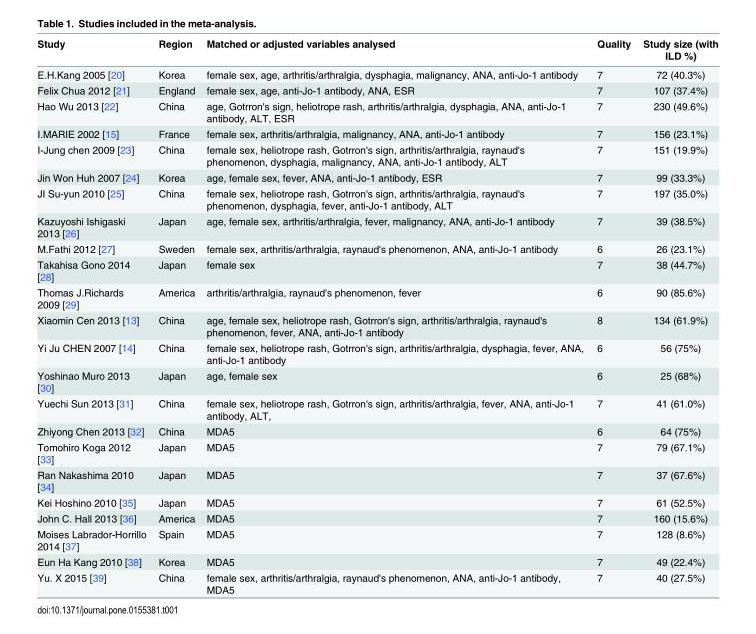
<table><thead><tr><td>Study</td><td>Region</td><td>Matched or adjusted variables analysed</td><td>Quality</td><td>Study size (with ILD %)</td></tr></thead><tbody><tr><td>E.H.Kang 2005 [20]</td><td>Korea</td><td>female sex, age, arthritis/arthralgia, dysphagia, malignancy, ANA, anti-Jo-1 antibody</td><td>7</td><td>72 (40.3%)</td></tr><tr><td>Felix Chua 2012 [21]</td><td>England</td><td>female sex, age, anti-Jo-1 antibody, ANA, ESR</td><td>7</td><td>107 (37.4%)</td></tr><tr><td>Hao Wu 2013 [22]</td><td>China</td><td>age, Gotrron&#x27;s sign, heliotrope rash, arthritis/arthralgia, dysphagia, ANA, anti-Jo-1 antibody, ALT, ESR</td><td>7</td><td>230 (49.6%)</td></tr><tr><td>I.MARIE 2002 [15]</td><td>France</td><td>female sex, arthritis/arthralgia, malignancy, ANA, anti-Jo-1 antibody</td><td>7</td><td>156 (23.1%)</td></tr><tr><td>I-Jung chen 2009 [23]</td><td>China</td><td>female sex, heliotrope rash, Gotrron&#x27;s sign, arthritis/arthralgia, raynaud&#x27;s phenomenon, dysphagia, malignancy, ANA, anti-Jo-1 antibody, ALT</td><td>7</td><td>151 (19.9%)</td></tr><tr><td>Jin Won Huh 2007 [24]</td><td>Korea</td><td>age, female sex, fever, ANA, anti-Jo-1 antibody, ESR</td><td>7</td><td>99 (33.3%)</td></tr><tr><td>JI Su-yun 2010 [25]</td><td>China</td><td>female sex, heliotrope rash, Gotrron&#x27;s sign, arthritis/arthralgia, raynaud&#x27;s phenomenon, dysphagia, fever, anti-Jo-1 antibody, ALT</td><td>7</td><td>197 (35.0%)</td></tr><tr><td>Kazuyoshi Ishigaski 2013 [26]</td><td>Japan</td><td>age, female sex, arthritis/arthralgia, fever, malignancy, ANA, anti-Jo-1 antibody</td><td>7</td><td>39 (38.5%)</td></tr><tr><td>M.Fathi 2012 [27]</td><td>Sweden</td><td>female sex, arthritis/arthralgia, raynaud&#x27;s phenomenon, ANA, anti-Jo-1 antibody</td><td>6</td><td>26 (23.1%)</td></tr><tr><td>Takahisa Gono 2014 [28]</td><td>Japan</td><td>female sex</td><td>7</td><td>38 (44.7%)</td></tr><tr><td>Thomas J.Richards 2009 [29]</td><td>America</td><td>arthritis/arthralgia, raynaud&#x27;s phenomenon, fever</td><td>6</td><td>90 (85.6%)</td></tr><tr><td>Xiaomin Cen 2013 [13]</td><td>China</td><td>age, female sex, heliotrope rash, Gotrron&#x27;s sign, arthritis/arthralgia, raynaud&#x27;s phenomenon, fever, ANA, anti-Jo-1 antibody</td><td>8</td><td>134 (61.9%)</td></tr><tr><td>Yi Ju CHEN 2007 [14]</td><td>China</td><td>female sex, heliotrope rash, Gotrron&#x27;s sign, arthritis/arthralgia, dysphagia, fever, ANA, anti-Jo-1 antibody</td><td>6</td><td>56 (75%)</td></tr><tr><td>Yoshinao Muro 2013 [30]</td><td>Japan</td><td>age, female sex</td><td>6</td><td>25 (68%)</td></tr><tr><td>Yuechi Sun 2013 [31]</td><td>China</td><td>female sex, heliotrope rash, Gotrron&#x27;s sign, arthritis/arthralgia, fever, ANA, anti-Jo-1 antibody, ALT,</td><td>7</td><td>41 (61.0%)</td></tr><tr><td>Zhiyong Chen 2013 [32]</td><td>China</td><td>MDA5</td><td>6</td><td>64 (75%)</td></tr><tr><td>Tomohiro Koga 2012 [33]</td><td>Japan</td><td>MDA5</td><td>7</td><td>79 (67.1%)</td></tr><tr><td>Ran Nakashima 2010 [34]</td><td>Japan</td><td>MDA5</td><td>7</td><td>37 (67.6%)</td></tr><tr><td>Kei Hoshino 2010 [35]</td><td>Japan</td><td>MDA5</td><td>7</td><td>61 (52.5%)</td></tr><tr><td>John C. Hall 2013 [36]</td><td>America</td><td>MDA5</td><td>7</td><td>160 (15.6%)</td></tr><tr><td>Moises Labrador-Horrillo 2014 [37]</td><td>Spain</td><td>MDA5</td><td>7</td><td>128 (8.6%)</td></tr><tr><td>Eun Ha Kang 2010 [38]</td><td>Korea</td><td>MDA5</td><td>7</td><td>49 (22.4%)</td></tr><tr><td>Yu. X 2015 [39]</td><td>China</td><td>female sex, arthritis/arthralgia, raynaud&#x27;s phenomenon, ANA, anti-Jo-1 antibody, MDA5</td><td>7</td><td>40 (27.5%)</td></tr></tbody></table>